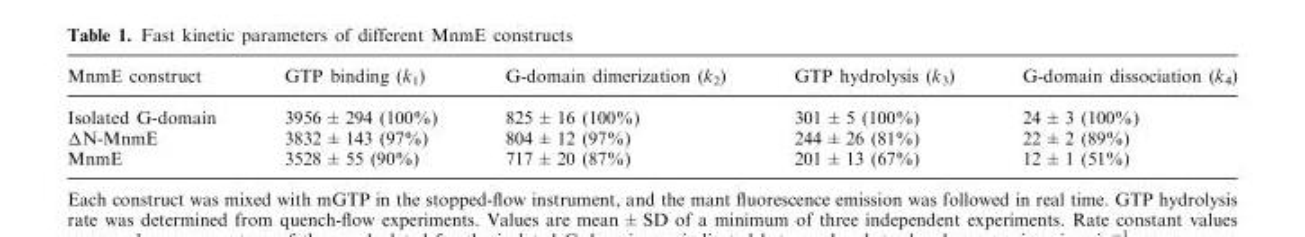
<table><thead><tr><td>MnmE construct</td><td>GTP binding (k<sub>1</sub>)</td><td>G-domain dimerization (k<sub>2</sub>)</td><td>GTP hydrolysis (k<sub>3</sub>)</td><td>G-domain dissociation (k<sub>4</sub>)</td></tr></thead><tbody><tr><td>Isolated G-domain</td><td>3956 ± 294 (100%)</td><td>825 ± 16 (100%)</td><td>301 ± 5 (100%)</td><td>24 ± 3 (100%)</td></tr><tr><td>ΔN-MnmE</td><td>3832 ± 143 (97%)</td><td>804 ± 12 (97%)</td><td>244 ± 26 (81%)</td><td>22 ± 2 (89%)</td></tr><tr><td>MnmE</td><td>3528 ± 55 (90%)</td><td>717 ± 20 (87%)</td><td>201 ± 13 (67%)</td><td>12 ± 1 (51%)</td></tr></tbody></table>